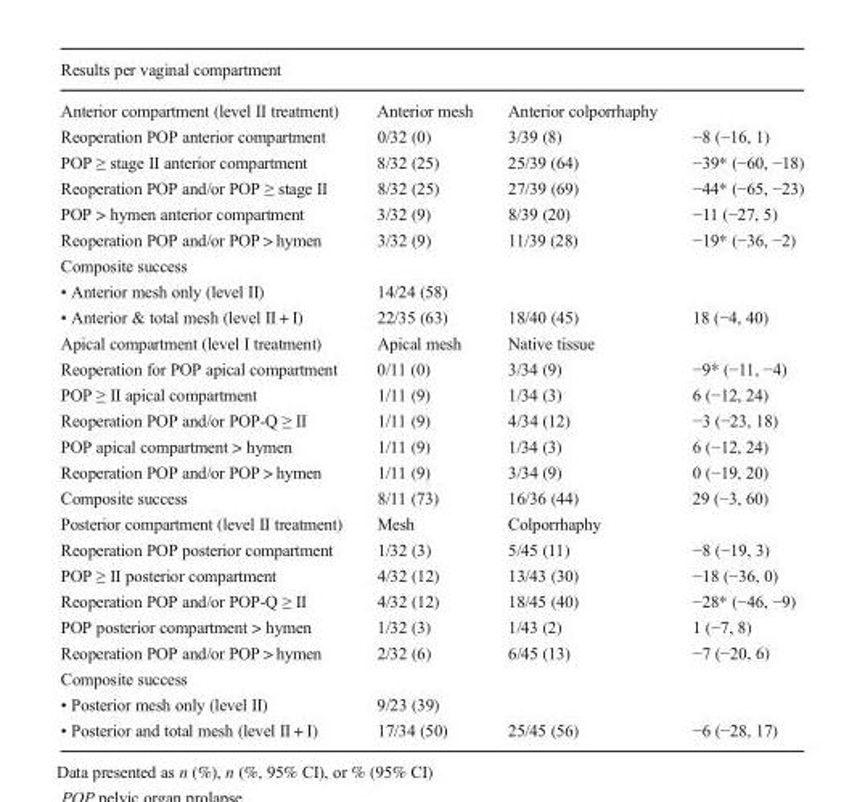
<table><thead><tr><td colspan="4">Results per vaginal compartment</td></tr><tr><td>Anterior compartment (level II treatment)</td><td>Anterior mesh</td><td>Anterior colporrhaphy</td><td></td></tr></thead><tbody><tr><td>Reoperation POP anterior compartment</td><td>0/32 (0)</td><td>3/39 (8)</td><td>−8 (−16, 1)</td></tr><tr><td>POP ≥ stage II anterior compartment</td><td>8/32 (25)</td><td>25/39 (64)</td><td>−39* (−60, −18)</td></tr><tr><td>Reoperation POP and/or POP ≥ stage II</td><td>8/32 (25)</td><td>27/39 (69)</td><td>−44* (−65, −23)</td></tr><tr><td>POP &gt; hymen anterior compartment</td><td>3/32 (9)</td><td>8/39 (20)</td><td>−11 (−27, 5)</td></tr><tr><td>Reoperation POP and/or POP &gt; hymen</td><td>3/32 (9)</td><td>11/39 (28)</td><td>−19* (−36, −2)</td></tr><tr><td colspan="4">Composite success</td></tr><tr><td>• Anterior mesh only (level II)</td><td>14/24 (58)</td><td></td><td></td></tr><tr><td>• Anterior &amp; total mesh (level II + I)</td><td>22/35 (63)</td><td>18/40 (45)</td><td>18 (−4, 40)</td></tr><tr><td>Apical compartment (level I treatment)</td><td>Apical mesh</td><td>Native tissue</td><td></td></tr><tr><td>Reoperation for POP apical compartment</td><td>0/11 (0)</td><td>3/34 (9)</td><td>−9* (−11, −4)</td></tr><tr><td>POP ≥ II apical compartment</td><td>1/11 (9)</td><td>1/34 (3)</td><td>6 (−12, 24)</td></tr><tr><td>Reoperation POP and/or POP-Q ≥ II</td><td>1/11 (9)</td><td>4/34 (12)</td><td>−3 (−23, 18)</td></tr><tr><td>POP apical compartment &gt; hymen</td><td>1/11 (9)</td><td>1/34 (3)</td><td>6 (−12, 24)</td></tr><tr><td>Reoperation POP and/or POP &gt; hymen</td><td>1/11 (9)</td><td>3/34 (9)</td><td>0 (−19, 20)</td></tr><tr><td>Composite success</td><td>8/11 (73)</td><td>16/36 (44)</td><td>29 (−3, 60)</td></tr><tr><td>Posterior compartment (level II treatment)</td><td>Mesh</td><td>Colporrhaphy</td><td></td></tr><tr><td>Reoperation POP posterior compartment</td><td>1/32 (3)</td><td>5/45 (11)</td><td>−8 (−19, 3)</td></tr><tr><td>POP ≥ II posterior compartment</td><td>4/32 (12)</td><td>13/43 (30)</td><td>−18 (−36, 0)</td></tr><tr><td>Reoperation POP and/or POP-Q ≥ II</td><td>4/32 (12)</td><td>18/45 (40)</td><td>−28* (−46, −9)</td></tr><tr><td>POP posterior compartment &gt; hymen</td><td>1/32 (3)</td><td>1/43 (2)</td><td>1 (−7, 8)</td></tr><tr><td>Reoperation POP and/or POP &gt; hymen</td><td>2/32 (6)</td><td>6/45 (13)</td><td>−7 (−20, 6)</td></tr><tr><td colspan="4">Composite success</td></tr><tr><td>• Posterior mesh only (level II)</td><td>9/23 (39)</td><td></td><td></td></tr><tr><td>• Posterior and total mesh (level II + I)</td><td>17/34 (50)</td><td>25/45 (56)</td><td>−6 (−28, 17)</td></tr></tbody></table>